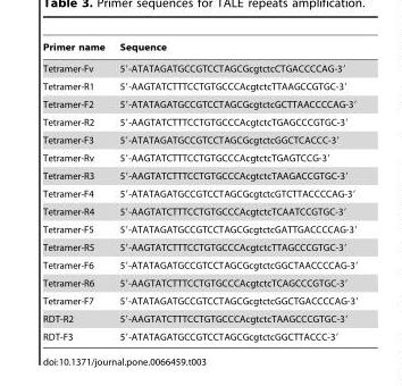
<table><thead><tr><td>Primer name</td><td>Sequence</td></tr></thead><tbody><tr><td>Tetramer-Fv</td><td>5′-ATATAGATGCCGTCCTAGCGcgtctcCTGACCCCAG-3′</td></tr><tr><td>Tetramer-R1</td><td>5′-AAGTATCTTTCCTGTGCCCAcgtctcTTAAGCCGTGC-3′</td></tr><tr><td>Tetramer-F2</td><td>5′-ATATAGATGCCGTCCTAGCGcgtctcGCTTAACCCCAG-3′</td></tr><tr><td>Tetramer-R2</td><td>5′-AAGTATCTTTCCTGTGCCCAcgtctcTGAGCCCGTGC-3′</td></tr><tr><td>Tetramer-F3</td><td>5′-ATATAGATGCCGTCCTAGCGcgtctcGGCTCACCC-3′</td></tr><tr><td>Tetramer-Rv</td><td>5′-AAGTATCTTTCCTGTGCCCAcgtctcTGAGTCCG-3′</td></tr><tr><td>Tetramer-R3</td><td>5′-AAGTATCTTTCCTGTGCCCAcgtctcTAAGACCGTGC-3′</td></tr><tr><td>Tetramer-F4</td><td>5′-ATATAGATGCCGTCCTAGCGcgtctcGTCTTACCCCAG-3′</td></tr><tr><td>Tetramer-R4</td><td>5′-AAGTATCTTTCCTGTGCCCAcgtctcTCAATCCGTGC-3′</td></tr><tr><td>Tetramer-F5</td><td>5′-ATATAGATGCCGTCCTAGCGcgtctcGATTGACCCCAG-3′</td></tr><tr><td>Tetramer-R5</td><td>5′-AAGTATCTTTCCTGTGCCCAcgtctcTTAGCCCGTGC-3′</td></tr><tr><td>Tetramer-F6</td><td>5′-ATATAGATGCCGTCCTAGCGcgtctcGGCTAACCCCAG-3′</td></tr><tr><td>Tetramer-R6</td><td>5′-AAGTATCTTTCCTGTGCCCAcgtctcTCAGCCCGTGC-3′</td></tr><tr><td>Tetramer-F7</td><td>5′-ATATAGATGCCGTCCTAGCGcgtctcGGCTGACCCCAG-3′</td></tr><tr><td>RDT-R2</td><td>5′-AAGTATCTTTCCTGTGCCCAcgtctcTAAGCCCGTGC-3′</td></tr><tr><td>RDT-F3</td><td>5′-ATATAGATGCCGTCCTAGCGcgtctcGGCTTACCC-3′</td></tr></tbody></table>